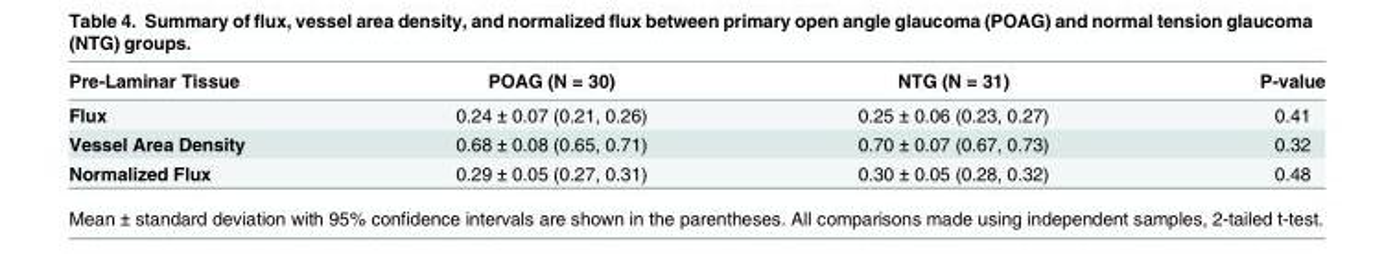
<table><thead><tr><td>Pre-Laminar Tissue</td><td>POAG (N = 30)</td><td>NTG (N = 31)</td><td>P-value</td></tr></thead><tbody><tr><td>Flux</td><td>0.24 ± 0.07 (0.21, 0.26)</td><td>0.25 ± 0.06 (0.23, 0.27)</td><td>0.41</td></tr><tr><td>Vessel Area Density</td><td>0.68 ± 0.08 (0.65, 0.71)</td><td>0.70 ± 0.07 (0.67, 0.73)</td><td>0.32</td></tr><tr><td>Normalized Flux</td><td>0.29 ± 0.05 (0.27, 0.31)</td><td>0.30 ± 0.05 (0.28, 0.32)</td><td>0.48</td></tr></tbody></table>